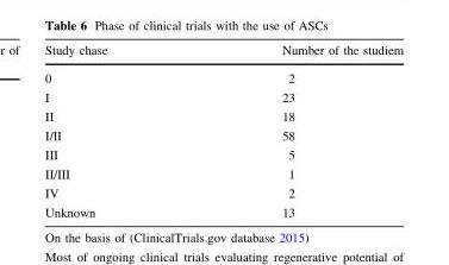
<table><thead><tr><td>Study chase</td><td>Number of the studiem</td></tr></thead><tbody><tr><td>0</td><td>2</td></tr><tr><td>I</td><td>23</td></tr><tr><td>II</td><td>18</td></tr><tr><td>I/II</td><td>58</td></tr><tr><td>III</td><td>5</td></tr><tr><td>II/III</td><td>1</td></tr><tr><td>IV</td><td>2</td></tr><tr><td>Unknown</td><td>13</td></tr></tbody></table>